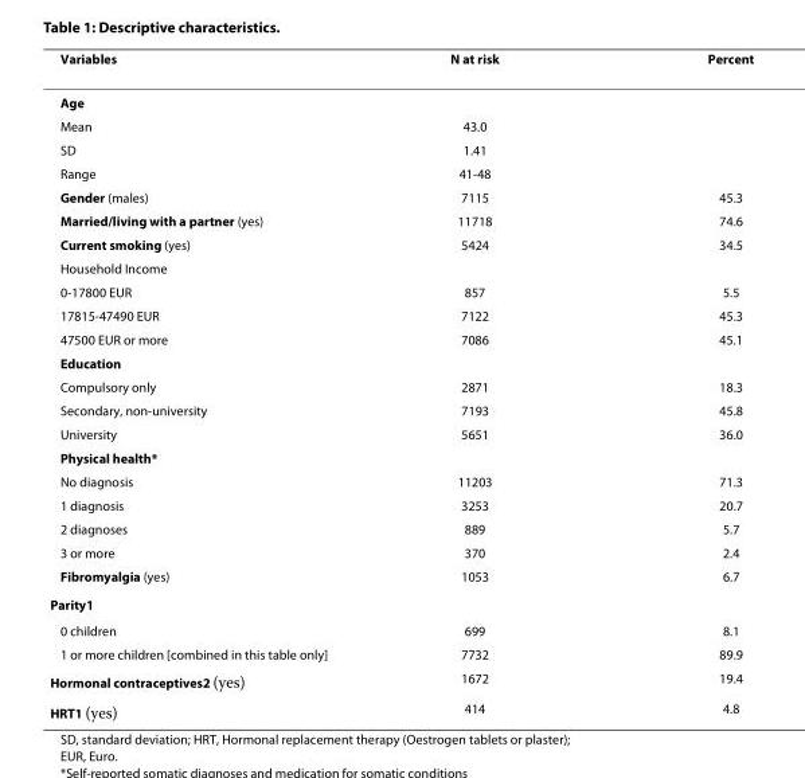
<table><thead><tr><td>Variables</td><td>N at risk</td><td>Percent</td></tr></thead><tbody><tr><td colspan="3">Age</td></tr><tr><td>Mean</td><td>43.0</td><td></td></tr><tr><td>SD</td><td>1.41</td><td></td></tr><tr><td>Range</td><td>41-48</td><td></td></tr><tr><td>Gender (males)</td><td>7115</td><td>45.3</td></tr><tr><td>Married/living with a partner (yes)</td><td>11718</td><td>74.6</td></tr><tr><td>Current smoking (yes)</td><td>5424</td><td>34.5</td></tr><tr><td colspan="3">Household Income</td></tr><tr><td>0-17800 EUR</td><td>857</td><td>5.5</td></tr><tr><td>17815-47490 EUR</td><td>7122</td><td>45.3</td></tr><tr><td>47500 EUR or more</td><td>7086</td><td>45.1</td></tr><tr><td colspan="3">Education</td></tr><tr><td>Compulsory only</td><td>2871</td><td>18.3</td></tr><tr><td>Secondary, non-university</td><td>7193</td><td>45.8</td></tr><tr><td>University</td><td>5651</td><td>36.0</td></tr><tr><td colspan="3">Physical health*</td></tr><tr><td>No diagnosis</td><td>11203</td><td>71.3</td></tr><tr><td>1 diagnosis</td><td>3253</td><td>20.7</td></tr><tr><td>2 diagnoses</td><td>889</td><td>5.7</td></tr><tr><td>3 or more</td><td>370</td><td>2.4</td></tr><tr><td>Fibromyalgia (yes)</td><td>1053</td><td>6.7</td></tr><tr><td colspan="3">Parity<sup>1</sup></td></tr><tr><td>0 children</td><td>699</td><td>8.1</td></tr><tr><td>1 or more children [combined in this table only]</td><td>7732</td><td>89.9</td></tr><tr><td>Hormonal contraceptives<sup>2</sup> (yes)</td><td>1672</td><td>19.4</td></tr><tr><td>HRT<sup>1</sup> (yes)</td><td>414</td><td>4.8</td></tr></tbody></table>